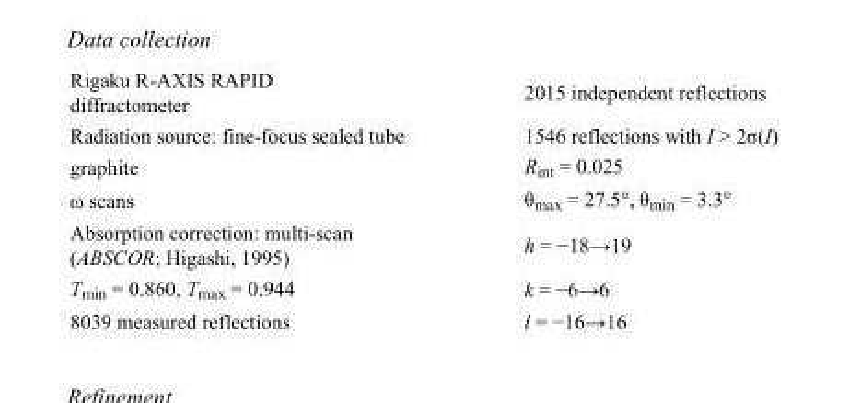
<table><tbody><tr><td>Rigaku R-AXIS RAPID diffractometer</td><td>2015 independent reflections</td></tr><tr><td>Radiation source: fine-focus sealed tube</td><td>1546 reflections with I &gt; 2σ(I)</td></tr><tr><td>graphite</td><td>R<sub>int</sub> = 0.025</td></tr><tr><td>ω scans</td><td>θ<sub>max</sub> = 27.5°, θ<sub>min</sub> = 3.3°</td></tr><tr><td>Absorption correction: multi-scan (ABSCOR; Higashi, 1995)</td><td>h = −18→19</td></tr><tr><td>T<sub>min</sub> = 0.860, T<sub>max</sub> = 0.944</td><td>k = −6→6</td></tr><tr><td>8039 measured reflections</td><td>l = −16→16</td></tr></tbody></table>